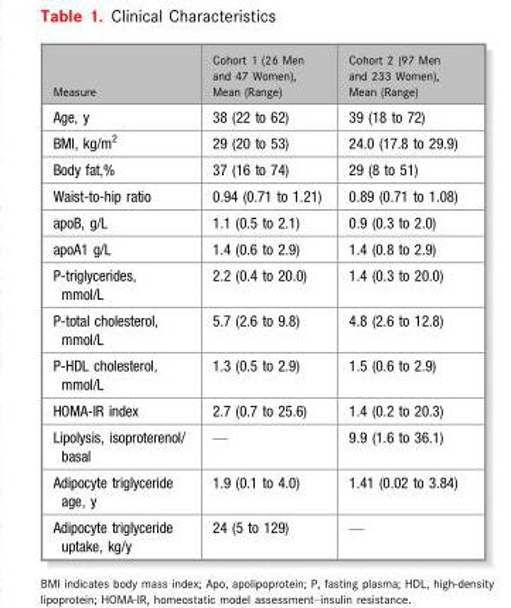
<table><thead><tr><td>Measure</td><td>Cohort 1 (26 Men and 47 Women), Mean (Range)</td><td>Cohort 2 (97 Men and 233 Women), Mean (Range)</td></tr></thead><tbody><tr><td>Age, y</td><td>38 (22 to 62)</td><td>39 (18 to 72)</td></tr><tr><td>BMI, kg/m<sup>2</sup></td><td>29 (20 to 53)</td><td>24.0 (17.8 to 29.9)</td></tr><tr><td>Body fat,%</td><td>37 (16 to 74)</td><td>29 (8 to 51)</td></tr><tr><td>Waist-to-hip ratio</td><td>0.94 (0.71 to 1.21)</td><td>0.89 (0.71 to 1.08)</td></tr><tr><td>apoB, g/L</td><td>1.1 (0.5 to 2.1)</td><td>0.9 (0.3 to 2.0)</td></tr><tr><td>apoA1 g/L</td><td>1.4 (0.6 to 2.9)</td><td>1.4 (0.8 to 2.9)</td></tr><tr><td>P-triglycerides, mmol/L</td><td>2.2 (0.4 to 20.0)</td><td>1.4 (0.3 to 20.0)</td></tr><tr><td>P-total cholesterol, mmol/L</td><td>5.7 (2.6 to 9.8)</td><td>4.8 (2.6 to 12.8)</td></tr><tr><td>P-HDL cholesterol, mmol/L</td><td>1.3 (0.5 to 2.9)</td><td>1.5 (0.6 to 2.9)</td></tr><tr><td>HOMA-IR index</td><td>2.7 (0.7 to 25.6)</td><td>1.4 (0.2 to 20.3)</td></tr><tr><td>Lipolysis, isoproterenol/ basal</td><td>—</td><td>9.9 (1.6 to 36.1)</td></tr><tr><td>Adipocyte triglyceride age, y</td><td>1.9 (0.1 to 4.0)</td><td>1.41 (0.02 to 3.84)</td></tr><tr><td>Adipocyte triglyceride uptake, kg/y</td><td>24 (5 to 129)</td><td>—</td></tr></tbody></table>